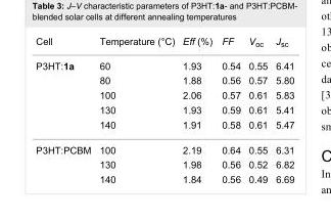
<table><tbody><tr><td>Cell</td><td>Temperature (°C)</td><td>Eff (%)</td><td>FF</td><td>V<sub>oc</sub></td><td>J<sub>sc</sub></td></tr><tr><td rowspan="5">P3HT:1a</td><td>60</td><td>1.93</td><td>0.54</td><td>0.55</td><td>6.41</td></tr><tr><td>80</td><td>1.88</td><td>0.56</td><td>0.57</td><td>5.80</td></tr><tr><td>100</td><td>2.06</td><td>0.57</td><td>0.61</td><td>5.83</td></tr><tr><td>130</td><td>1.93</td><td>0.59</td><td>0.61</td><td>5.41</td></tr><tr><td>140</td><td>1.91</td><td>0.58</td><td>0.61</td><td>5.47</td></tr><tr><td rowspan="3">P3HT:PCBM</td><td>100</td><td>2.19</td><td>0.64</td><td>0.55</td><td>6.31</td></tr><tr><td>130</td><td>1.98</td><td>0.56</td><td>0.52</td><td>6.82</td></tr><tr><td>140</td><td>1.84</td><td>0.56</td><td>0.49</td><td>6.69</td></tr></tbody></table>